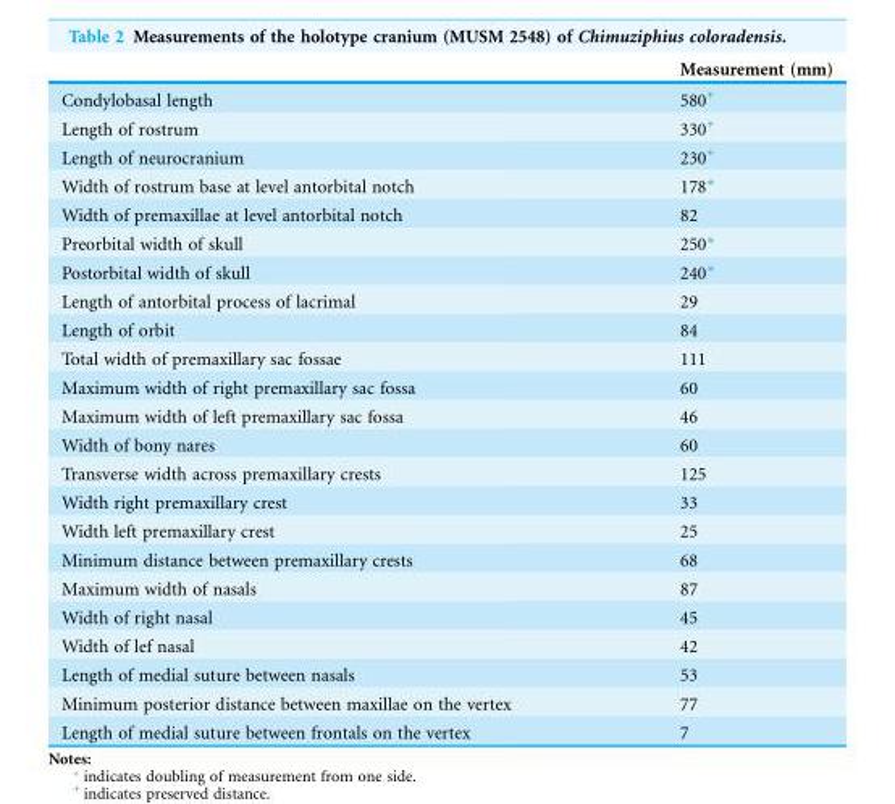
<table><thead><tr><td></td><td>Measurement (mm)</td></tr></thead><tbody><tr><td>Condylobasal length</td><td>580<sup>+</sup></td></tr><tr><td>Length of rostrum</td><td>330<sup>+</sup></td></tr><tr><td>Length of neurocranium</td><td>230<sup>+</sup></td></tr><tr><td>Width of rostrum base at level antorbital notch</td><td>178*</td></tr><tr><td>Width of premaxillae at level antorbital notch</td><td>82</td></tr><tr><td>Preorbital width of skull</td><td>250*</td></tr><tr><td>Postorbital width of skull</td><td>240*</td></tr><tr><td>Length of antorbital process of lacrimal</td><td>29</td></tr><tr><td>Length of orbit</td><td>84</td></tr><tr><td>Total width of premaxillary sac fossae</td><td>111</td></tr><tr><td>Maximum width of right premaxillary sac fossa</td><td>60</td></tr><tr><td>Maximum width of left premaxillary sac fossa</td><td>46</td></tr><tr><td>Width of bony nares</td><td>60</td></tr><tr><td>Transverse width across premaxillary crests</td><td>125</td></tr><tr><td>Width right premaxillary crest</td><td>33</td></tr><tr><td>Width left premaxillary crest</td><td>25</td></tr><tr><td>Minimum distance between premaxillary crests</td><td>68</td></tr><tr><td>Maximum width of nasals</td><td>87</td></tr><tr><td>Width of right nasal</td><td>45</td></tr><tr><td>Width of lef nasal</td><td>42</td></tr><tr><td>Length of medial suture between nasals</td><td>53</td></tr><tr><td>Minimum posterior distance between maxillae on the vertex</td><td>77</td></tr><tr><td>Length of medial suture between frontals on the vertex</td><td>7</td></tr></tbody></table>